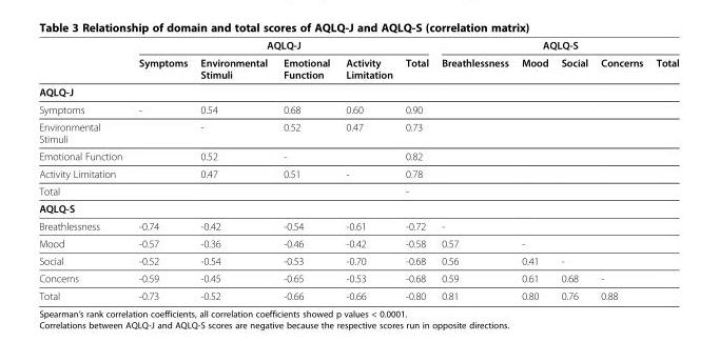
<table><thead><tr><td rowspan="2"></td><td colspan="5">AQLQ-J</td><td colspan="5">AQLQ-S</td></tr><tr><td>Symptoms</td><td>Environmental Stimuli</td><td>Emotional Function</td><td>Activity Limitation</td><td>Total</td><td>Breathlessness</td><td>Mood</td><td>Social</td><td>Concerns</td><td>Total</td></tr></thead><tbody><tr><td colspan="11">AQLQ-J</td></tr><tr><td>Symptoms</td><td>-</td><td>0.54</td><td>0.68</td><td>0.60</td><td>0.90</td><td></td><td></td><td></td><td></td><td></td></tr><tr><td>Environmental Stimuli</td><td></td><td>-</td><td>0.52</td><td>0.47</td><td>0.73</td><td></td><td></td><td></td><td></td><td></td></tr><tr><td>Emotional Function</td><td></td><td>0.52</td><td>-</td><td></td><td>0.82</td><td></td><td></td><td></td><td></td><td></td></tr><tr><td>Activity Limitation</td><td></td><td>0.47</td><td>0.51</td><td>-</td><td>0.78</td><td></td><td></td><td></td><td></td><td></td></tr><tr><td>Total</td><td></td><td></td><td></td><td></td><td>-</td><td></td><td></td><td></td><td></td><td></td></tr><tr><td colspan="11">AQLQ-S</td></tr><tr><td>Breathlessness</td><td>-0.74</td><td>-0.42</td><td>-0.54</td><td>-0.61</td><td>-0.72</td><td>-</td><td></td><td></td><td></td><td></td></tr><tr><td>Mood</td><td>-0.57</td><td>-0.36</td><td>-0.46</td><td>-0.42</td><td>-0.58</td><td>0.57</td><td>-</td><td></td><td></td><td></td></tr><tr><td>Social</td><td>-0.52</td><td>-0.54</td><td>-0.53</td><td>-0.70</td><td>-0.68</td><td>0.56</td><td>0.41</td><td>-</td><td></td><td></td></tr><tr><td>Concerns</td><td>-0.59</td><td>-0.45</td><td>-0.65</td><td>-0.53</td><td>-0.68</td><td>0.59</td><td>0.61</td><td>0.68</td><td>-</td><td></td></tr><tr><td>Total</td><td>-0.73</td><td>-0.52</td><td>-0.66</td><td>-0.66</td><td>-0.80</td><td>0.81</td><td>0.80</td><td>0.76</td><td>0.88</td><td></td></tr></tbody></table>